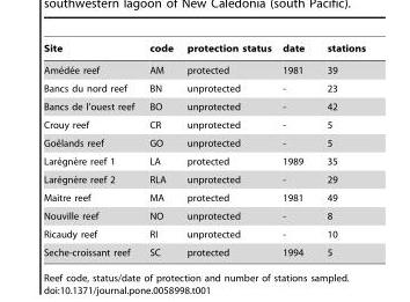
<table><thead><tr><td>Site</td><td>code</td><td>protection status</td><td>date</td><td>stations</td></tr></thead><tbody><tr><td>Ame´de´e reef</td><td>AM</td><td>protected</td><td>1981</td><td>39</td></tr><tr><td>Bancs du nord reef</td><td>BN</td><td>unprotected</td><td>-</td><td>23</td></tr><tr><td>Bancs de l’ouest reef</td><td>BO</td><td>unprotected</td><td>-</td><td>42</td></tr><tr><td>Crouy reef</td><td>CR</td><td>unprotected</td><td>-</td><td>5</td></tr><tr><td>Goeˆlands reef</td><td>GO</td><td>unprotected</td><td>-</td><td>5</td></tr><tr><td>Lare´gne`re reef 1</td><td>LA</td><td>protected</td><td>1989</td><td>35</td></tr><tr><td>Lare´gne`re reef 2</td><td>RLA</td><td>unprotected</td><td>-</td><td>29</td></tr><tr><td>Maitre reef</td><td>MA</td><td>protected</td><td>1981</td><td>49</td></tr><tr><td>Nouville reef</td><td>NO</td><td>unprotected</td><td>-</td><td>8</td></tr><tr><td>Ricaudy reef</td><td>RI</td><td>unprotected</td><td>-</td><td>10</td></tr><tr><td>Seche-croissant reef</td><td>SC</td><td>protected</td><td>1994</td><td>5</td></tr></tbody></table>